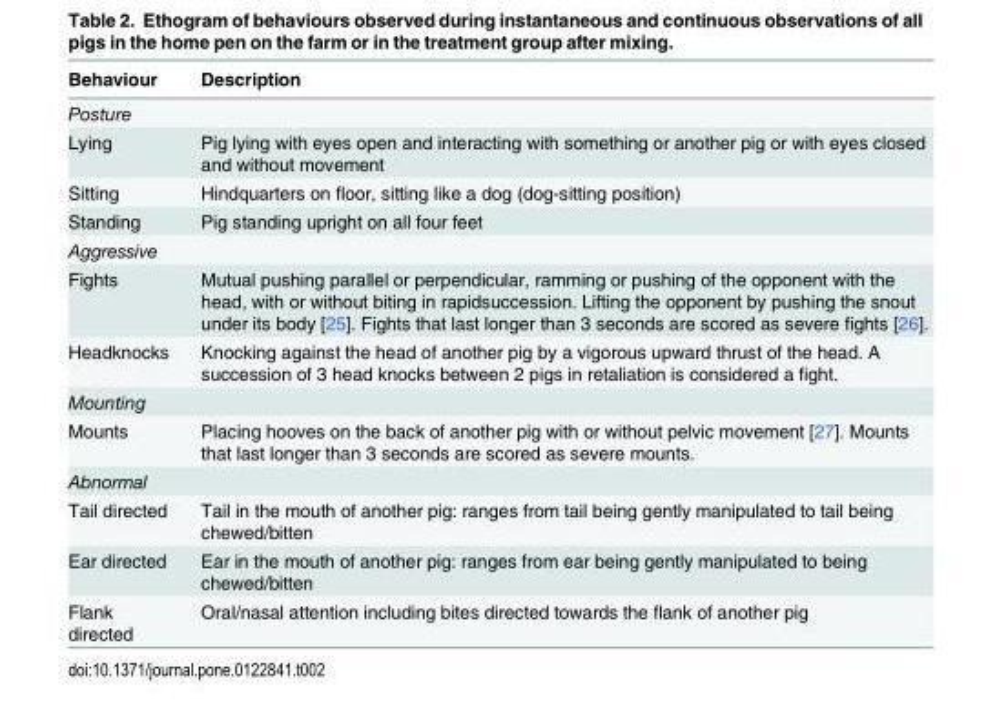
<table><thead><tr><td>Behaviour</td><td>Description</td></tr></thead><tbody><tr><td colspan="2">Posture</td></tr><tr><td>Lying</td><td>Pig lying with eyes open and interacting with something or another pig or with eyes closed and without movement</td></tr><tr><td>Sitting</td><td>Hindquarters on floor, sitting like a dog (dog-sitting position)</td></tr><tr><td>Standing</td><td>Pig standing upright on all four feet</td></tr><tr><td colspan="2">Aggressive</td></tr><tr><td>Fights</td><td>Mutual pushing parallel or perpendicular, ramming or pushing of the opponent with the head, with or without biting in rapidsuccession. Lifting the opponent by pushing the snout under its body [25]. Fights that last longer than 3 seconds are scored as severe fights [26].</td></tr><tr><td>Headknocks</td><td>Knocking against the head of another pig by a vigorous upward thrust of the head. A succession of 3 head knocks between 2 pigs in retaliation is considered a fight.</td></tr><tr><td colspan="2">Mounting</td></tr><tr><td>Mounts</td><td>Placing hooves on the back of another pig with or without pelvic movement [27]. Mounts that last longer than 3 seconds are scored as severe mounts.</td></tr><tr><td colspan="2">Abnormal</td></tr><tr><td>Tail directed</td><td>Tail in the mouth of another pig: ranges from tail being gently manipulated to tail being chewed/bitten</td></tr><tr><td>Ear directed</td><td>Ear in the mouth of another pig: ranges from ear being gently manipulated to being chewed/bitten</td></tr><tr><td>Flank directed</td><td>Oral/nasal attention including bites directed towards the flank of another pig</td></tr></tbody></table>